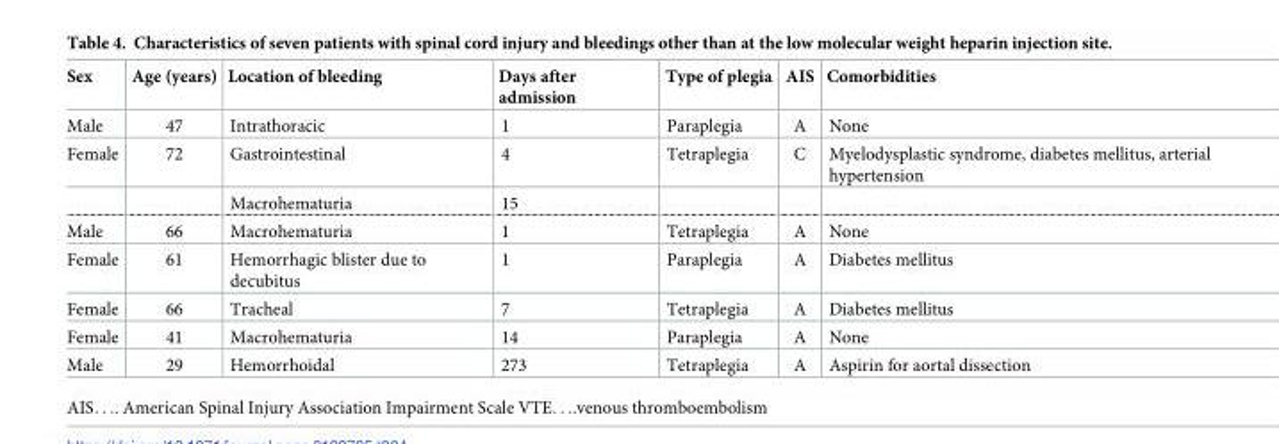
<table><thead><tr><td>Sex</td><td>Age (years)</td><td>Location of bleeding</td><td>Days after admission</td><td>Type of plegia</td><td>AIS</td><td>Comorbidities</td></tr></thead><tbody><tr><td>Male</td><td>47</td><td>Intrathoracic</td><td>1</td><td>Paraplegia</td><td>A</td><td>None</td></tr><tr><td rowspan="2">Female</td><td>72</td><td>Gastrointestinal</td><td>4</td><td>Tetraplegia</td><td>C</td><td>Myelodysplastic syndrome, diabetes mellitus, arterial hypertension</td></tr><tr><td></td><td>Macrohematuria</td><td>15</td><td></td><td></td><td></td></tr><tr><td>Male</td><td>66</td><td>Macrohematuria</td><td>1</td><td>Tetraplegia</td><td>A</td><td>None</td></tr><tr><td>Female</td><td>61</td><td>Hemorrhagic blister due to decubitus</td><td>1</td><td>Paraplegia</td><td>A</td><td>Diabetes mellitus</td></tr><tr><td>Female</td><td>66</td><td>Tracheal</td><td>7</td><td>Tetraplegia</td><td>A</td><td>Diabetes mellitus</td></tr><tr><td>Female</td><td>41</td><td>Macrohematuria</td><td>14</td><td>Paraplegia</td><td>A</td><td>None</td></tr><tr><td>Male</td><td>29</td><td>Hemorrhoidal</td><td>273</td><td>Tetraplegia</td><td>A</td><td>Aspirin for aortal dissection</td></tr></tbody></table>